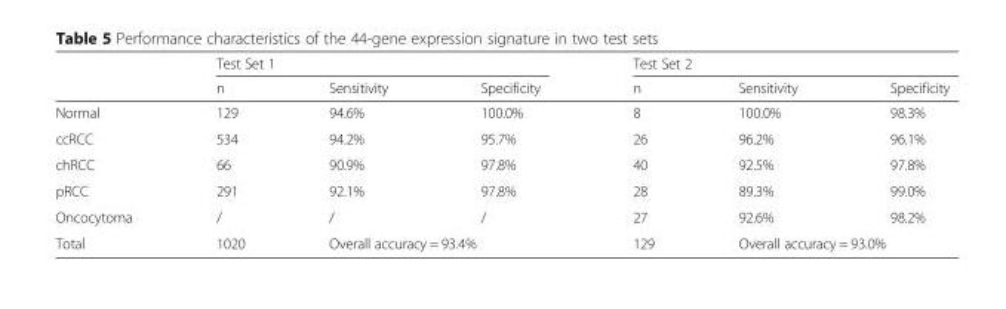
<table><thead><tr><td rowspan="2"></td><td colspan="3">Test Set 1</td><td colspan="3">Test Set 2</td></tr><tr><td>n</td><td>Sensitivity</td><td>Specificity</td><td>n</td><td>Sensitivity</td><td>Specificity</td></tr></thead><tbody><tr><td>Normal</td><td>129</td><td>94.6%</td><td>100.0%</td><td>8</td><td>100.0%</td><td>98.3%</td></tr><tr><td>ccRCC</td><td>534</td><td>94.2%</td><td>95.7%</td><td>26</td><td>96.2%</td><td>96.1%</td></tr><tr><td>chRCC</td><td>66</td><td>90.9%</td><td>97.8%</td><td>40</td><td>92.5%</td><td>97.8%</td></tr><tr><td>pRCC</td><td>291</td><td>92.1%</td><td>97.8%</td><td>28</td><td>89.3%</td><td>99.0%</td></tr><tr><td>Oncocytoma</td><td>/</td><td>/</td><td>/</td><td>27</td><td>92.6%</td><td>98.2%</td></tr><tr><td>Total</td><td>1020</td><td colspan="2">Overall accuracy = 93.4%</td><td>129</td><td colspan="2">Overall accuracy = 93.0%</td></tr></tbody></table>